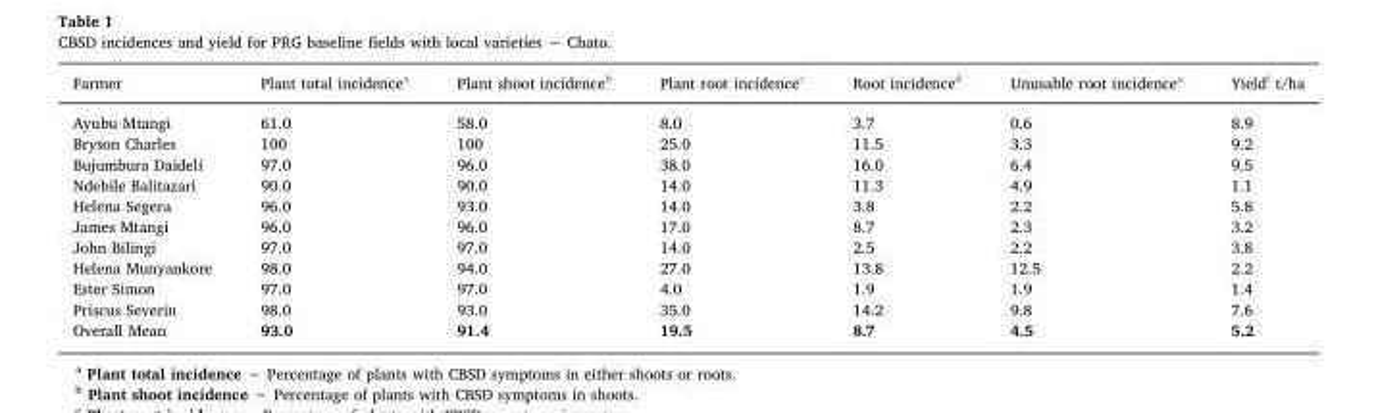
<table><thead><tr><td>Farmer</td><td>Plant total incidence<sup>a</sup></td><td>Plant shoot incidence<sup>b</sup></td><td>Plant root incidence<sup>c</sup></td><td>Root incidence<sup>d</sup></td><td>Unusable root incidence<sup>e</sup></td><td>Yield<sup>f</sup> t/ha</td></tr></thead><tbody><tr><td>Ayubu Mtangi</td><td>61.0</td><td>58.0</td><td>8.0</td><td>3.7</td><td>0.6</td><td>8.9</td></tr><tr><td>Bryson Charles</td><td>100</td><td>100</td><td>25.0</td><td>11.5</td><td>3.3</td><td>9.2</td></tr><tr><td>Bujumbura Daideli</td><td>97.0</td><td>96.0</td><td>38.0</td><td>16.0</td><td>6.4</td><td>9.5</td></tr><tr><td>Ndebile Balitazari</td><td>90.0</td><td>90.0</td><td>14.0</td><td>11.3</td><td>4.9</td><td>1.1</td></tr><tr><td>Helena Segera</td><td>96.0</td><td>93.0</td><td>14.0</td><td>3.8</td><td>2.2</td><td>5.8</td></tr><tr><td>James Mtangi</td><td>96.0</td><td>96.0</td><td>17.0</td><td>8.7</td><td>2.3</td><td>3.2</td></tr><tr><td>John Bilingi</td><td>97.0</td><td>97.0</td><td>14.0</td><td>2.5</td><td>2.2</td><td>3.8</td></tr><tr><td>Helena Munyankore</td><td>98.0</td><td>94.0</td><td>27.0</td><td>13.8</td><td>12.5</td><td>2.2</td></tr><tr><td>Ester Simon</td><td>97.0</td><td>97.0</td><td>4.0</td><td>1.9</td><td>1.9</td><td>1.4</td></tr><tr><td>Priscus Severin</td><td>98.0</td><td>93.0</td><td>35.0</td><td>14.2</td><td>9.8</td><td>7.6</td></tr><tr><td>Overall Mean</td><td>93.0</td><td>91.4</td><td>19.5</td><td>8.7</td><td>4.5</td><td>5.2</td></tr></tbody></table>